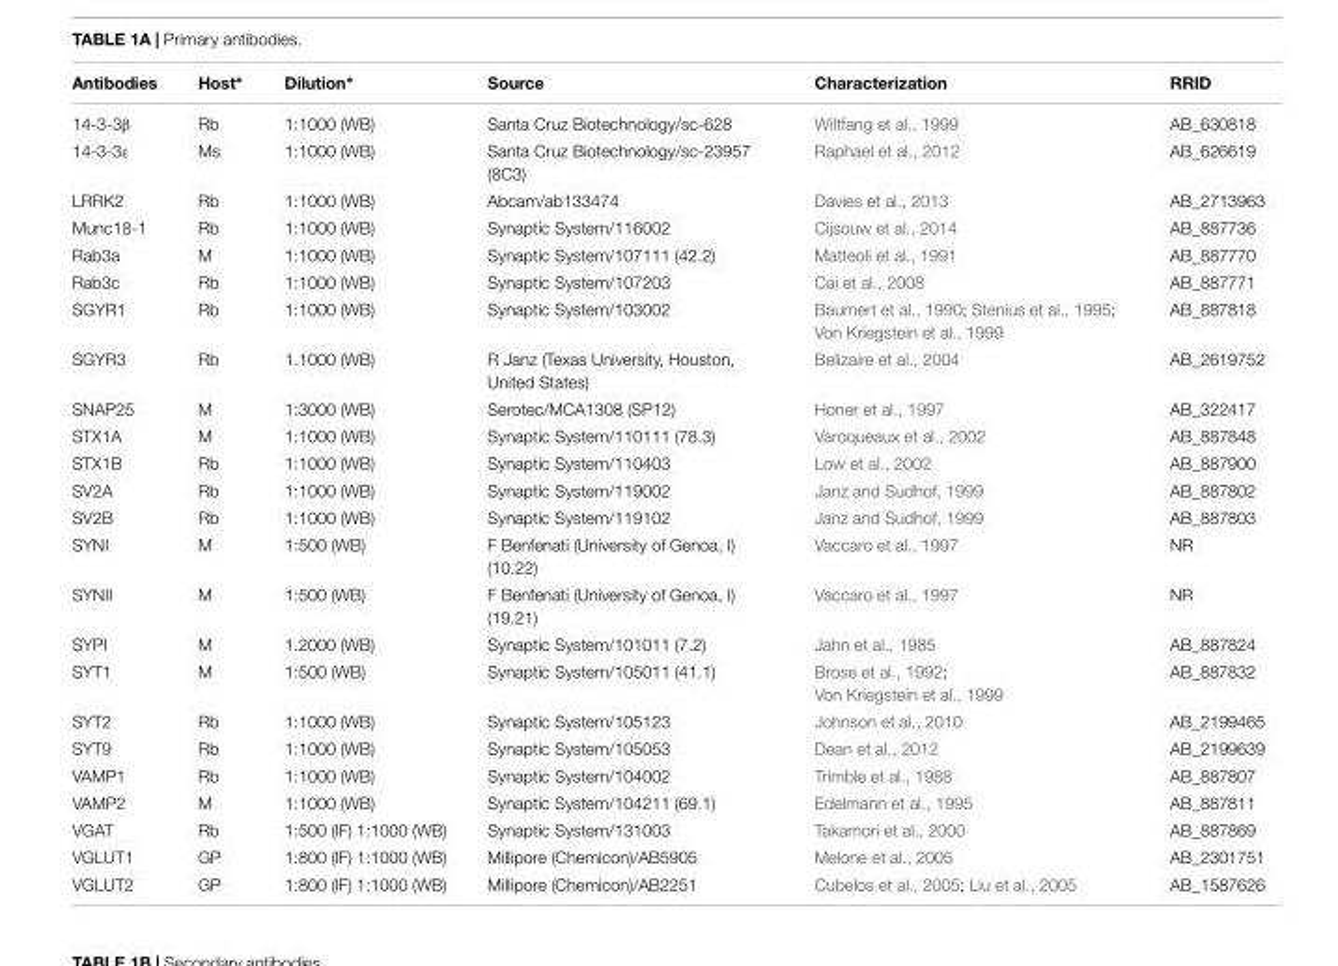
<table><thead><tr><td>Antibodies</td><td>Host∗</td><td>Dilution∗</td><td>Source</td><td>Characterization</td><td>RRID</td></tr></thead><tbody><tr><td>14-3-3β</td><td>Rb</td><td>1:1000 (WB)</td><td>Santa Cruz Biotechnology/sc-628</td><td>Wiltfang et al., 1999</td><td>AB_630818</td></tr><tr><td>14-3-3ε</td><td>Ms</td><td>1:1000 (WB)</td><td>Santa Cruz Biotechnology/sc-23957 (8C3)</td><td>Raphael et al., 2012</td><td>AB_626619</td></tr><tr><td>LRRK2</td><td>Rb</td><td>1:1000 (WB)</td><td>Abcam/ab133474</td><td>Davies et al., 2013</td><td>AB_2713963</td></tr><tr><td>Munc18-1</td><td>Rb</td><td>1:1000 (WB)</td><td>Synaptic System/116002</td><td>Cijsouw et al., 2014</td><td>AB_887736</td></tr><tr><td>Rab3a</td><td>M</td><td>1:1000 (WB)</td><td>Synaptic System/107111 (42.2)</td><td>Matteoli et al., 1991</td><td>AB_887770</td></tr><tr><td>Rab3c</td><td>Rb</td><td>1:1000 (WB)</td><td>Synaptic System/107203</td><td>Cai et al., 2008</td><td>AB_887771</td></tr><tr><td>SGYR1</td><td>Rb</td><td>1:1000 (WB)</td><td>Synaptic System/103002</td><td>Baumert et al., 1990; Stenius et al., 1995; Von Kriegstein et al., 1999</td><td>AB_887818</td></tr><tr><td>SGYR3</td><td>Rb</td><td>1.1000 (WB)</td><td>R Janz (Texas University, Houston, United States)</td><td>Belizaire et al., 2004</td><td>AB_2619752</td></tr><tr><td>SNAP25</td><td>M</td><td>1:3000 (WB)</td><td>Serotec/MCA1308 (SP12)</td><td>Honer et al., 1997</td><td>AB_322417</td></tr><tr><td>STX1A</td><td>M</td><td>1:1000 (WB)</td><td>Synaptic System/110111 (78.3)</td><td>Varoqueaux et al., 2002</td><td>AB_887848</td></tr><tr><td>STX1B</td><td>Rb</td><td>1:1000 (WB)</td><td>Synaptic System/110403</td><td>Low et al., 2002</td><td>AB_887900</td></tr><tr><td>SV2A</td><td>Rb</td><td>1:1000 (WB)</td><td>Synaptic System/119002</td><td>Janz and Sudhof, 1999</td><td>AB_887802</td></tr><tr><td>SV2B</td><td>Rb</td><td>1:1000 (WB)</td><td>Synaptic System/119102</td><td>Janz and Sudhof, 1999</td><td>AB_887803</td></tr><tr><td>SYNI</td><td>M</td><td>1:500 (WB)</td><td>F Benfenati (University of Genoa, I) (10.22)</td><td>Vaccaro et al., 1997</td><td>NR</td></tr><tr><td>SYNII</td><td>M</td><td>1:500 (WB)</td><td>F Benfenati (University of Genoa, I) (19.21)</td><td>Vaccaro et al., 1997</td><td>NR</td></tr><tr><td>SYPI</td><td>M</td><td>1.2000 (WB)</td><td>Synaptic System/101011 (7.2)</td><td>Jahn et al., 1985</td><td>AB_887824</td></tr><tr><td>SYT1</td><td>M</td><td>1:500 (WB)</td><td>Synaptic System/105011 (41.1)</td><td>Brose et al., 1992; Von Kriegstein et al., 1999</td><td>AB_887832</td></tr><tr><td>SYT2</td><td>Rb</td><td>1:1000 (WB)</td><td>Synaptic System/105123</td><td>Johnson et al., 2010</td><td>AB_2199465</td></tr><tr><td>SYT9</td><td>Rb</td><td>1:1000 (WB)</td><td>Synaptic System/105053</td><td>Dean et al., 2012</td><td>AB_2199639</td></tr><tr><td>VAMP1</td><td>Rb</td><td>1:1000 (WB)</td><td>Synaptic System/104002</td><td>Trimble et al., 1988</td><td>AB_887807</td></tr><tr><td>VAMP2</td><td>M</td><td>1:1000 (WB)</td><td>Synaptic System/104211 (69.1)</td><td>Edelmann et al., 1995</td><td>AB_887811</td></tr><tr><td>VGAT</td><td>Rb</td><td>1:500 (IF) 1:1000 (WB)</td><td>Synaptic System/131003</td><td>Takamori et al., 2000</td><td>AB_887869</td></tr><tr><td>VGLUT1</td><td>GP</td><td>1:800 (IF) 1:1000 (WB)</td><td>Millipore (Chemicon)/AB5905</td><td>Melone et al., 2005</td><td>AB_2301751</td></tr><tr><td>VGLUT2</td><td>GP</td><td>1:800 (IF) 1:1000 (WB)</td><td>Millipore (Chemicon)/AB2251</td><td>Cubelos et al., 2005; Liu et al., 2005</td><td>AB_1587626</td></tr></tbody></table>